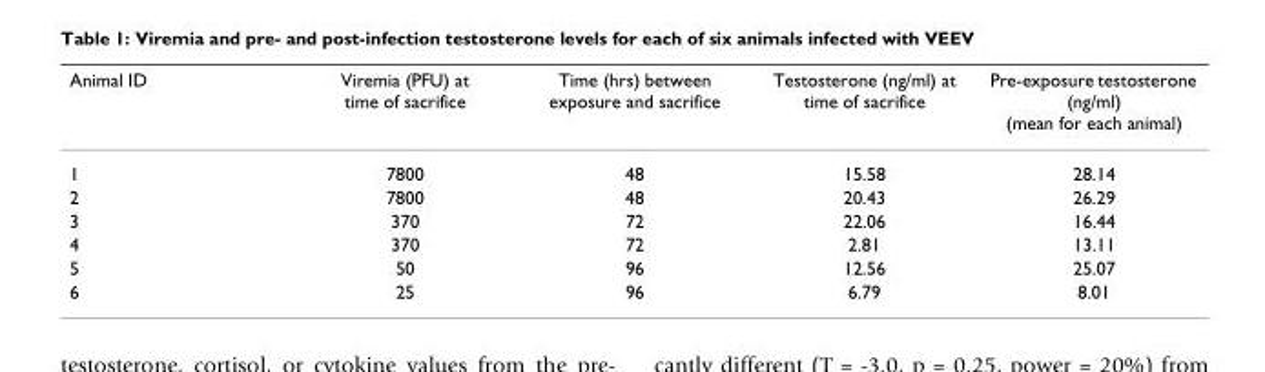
<table><thead><tr><td>Animal ID</td><td>Viremia (PFU) at time of sacrifice</td><td>Time (hrs) between exposure and sacrifice</td><td>Testosterone (ng/ml) at time of sacrifice</td><td>Pre-exposure testosterone (ng/ml) (mean for each animal)</td></tr></thead><tbody><tr><td>1</td><td>7800</td><td>48</td><td>15.58</td><td>28.14</td></tr><tr><td>2</td><td>7800</td><td>48</td><td>20.43</td><td>26.29</td></tr><tr><td>3</td><td>370</td><td>72</td><td>22.06</td><td>16.44</td></tr><tr><td>4</td><td>370</td><td>72</td><td>2.81</td><td>13.11</td></tr><tr><td>5</td><td>50</td><td>96</td><td>12.56</td><td>25.07</td></tr><tr><td>6</td><td>25</td><td>96</td><td>6.79</td><td>8.01</td></tr></tbody></table>